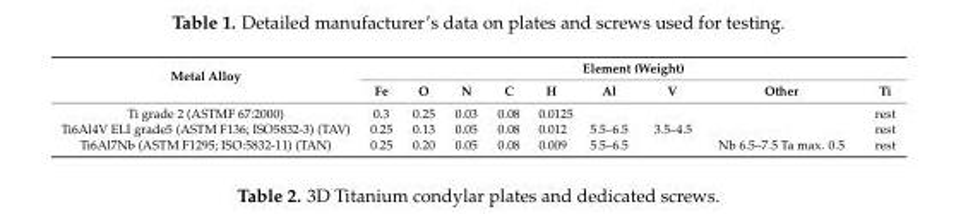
<table><thead><tr><td rowspan="2">Metal Alloy</td><td colspan="9">Element (Weight)</td></tr><tr><td>Fe</td><td>O</td><td>N</td><td>C</td><td>H</td><td>Al</td><td>V</td><td>Other</td><td>Ti</td></tr></thead><tbody><tr><td>Ti grade 2 (ASTMF 67:2000)</td><td>0.3</td><td>0.25</td><td>0.03</td><td>0.08</td><td>0.0125</td><td></td><td></td><td></td><td>rest</td></tr><tr><td>Ti6Al4V ELI grade5 (ASTM F136; ISO5832-3) (TAV)</td><td>0.25</td><td>0.13</td><td>0.05</td><td>0.08</td><td>0.012</td><td>5.5–6.5</td><td>3.5–4.5</td><td></td><td>rest</td></tr><tr><td>Ti6Al7Nb (ASTM F1295; ISO:5832-11) (TAN)</td><td>0.25</td><td>0.20</td><td>0.05</td><td>0.08</td><td>0.009</td><td>5.5–6.5</td><td></td><td>Nb 6.5–7.5 Ta max. 0.5</td><td>rest</td></tr></tbody></table>